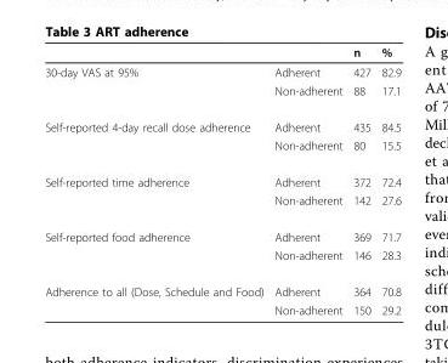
<table><thead><tr><td></td><td></td><td>n</td><td>%</td></tr></thead><tbody><tr><td rowspan="2">30-day VAS at 95%</td><td>Adherent</td><td>427</td><td>82.9</td></tr><tr><td>Non-adherent</td><td>88</td><td>17.1</td></tr><tr><td rowspan="2">Self-reported 4-day recall dose adherence</td><td>Adherent</td><td>435</td><td>84.5</td></tr><tr><td>Non-adherent</td><td>80</td><td>15.5</td></tr><tr><td rowspan="2">Self-reported time adherence</td><td>Adherent</td><td>372</td><td>72.4</td></tr><tr><td>Non-adherent</td><td>142</td><td>27.6</td></tr><tr><td rowspan="2">Self-reported food adherence</td><td>Adherent</td><td>369</td><td>71.7</td></tr><tr><td>Non-adherent</td><td>146</td><td>28.3</td></tr><tr><td rowspan="2">Adherence to all (Dose, Schedule and Food)</td><td>Adherent</td><td>364</td><td>70.8</td></tr><tr><td>Non-adherent</td><td>150</td><td>29.2</td></tr></tbody></table>